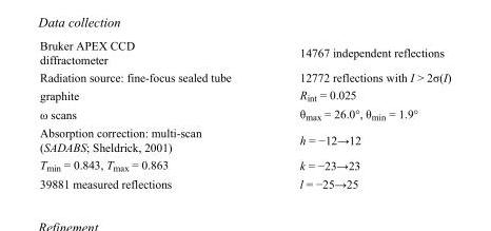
<table><tbody><tr><td>Bruker APEX CCD diffractometer</td><td>14767 independent reflections</td></tr><tr><td>Radiation source: fine-focus sealed tube</td><td>12772 reflections with I &gt; 2σ(I)</td></tr><tr><td>graphite</td><td>R<sub>int</sub> = 0.025</td></tr><tr><td>ω scans</td><td>θ<sub>max</sub> = 26.0°, θ<sub>min</sub> = 1.9°</td></tr><tr><td>Absorption correction: multi-scan (SADABS; Sheldrick, 2001)</td><td>h = −12→12</td></tr><tr><td>T<sub>min</sub> = 0.843, T<sub>max</sub> = 0.863</td><td>k = −23→23</td></tr><tr><td>39881 measured reflections</td><td>l = −25→25</td></tr></tbody></table>